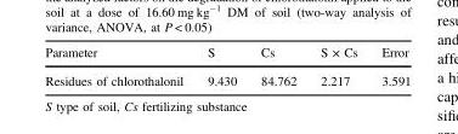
<table><thead><tr><td>Parameter</td><td>S</td><td>Cs</td><td>S × Cs</td><td>Error</td></tr></thead><tbody><tr><td>Residues of chlorothalonil</td><td>9.430</td><td>84.762</td><td>2.217</td><td>3.591</td></tr></tbody></table>